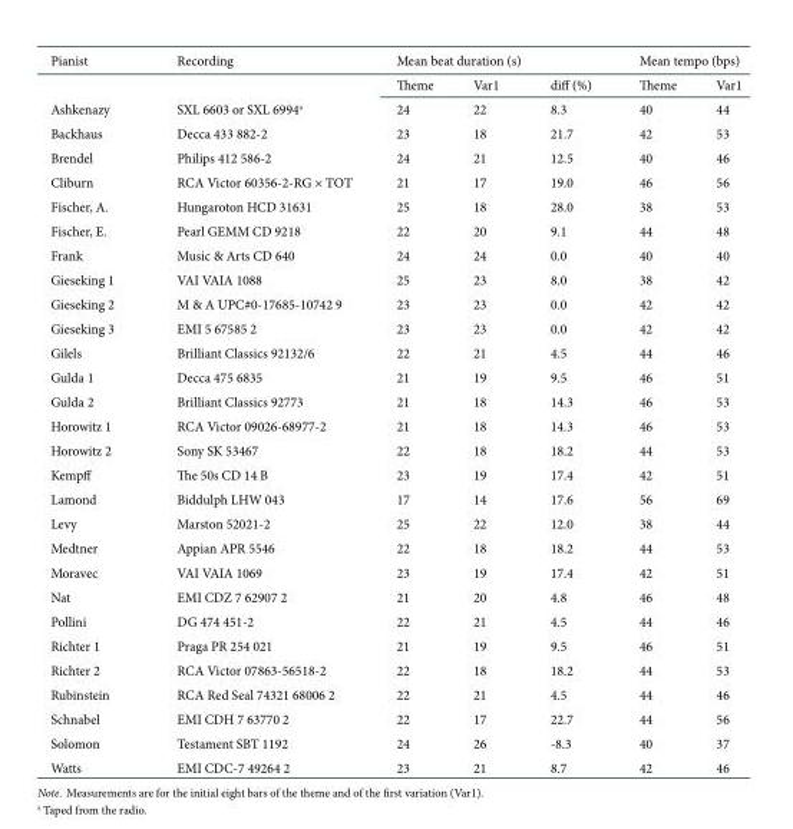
<table><thead><tr><td rowspan="2">Pianist</td><td rowspan="2">Recording</td><td colspan="2">Mean beat duration (s)</td><td rowspan="2">diff (%)</td><td colspan="2">Mean tempo (bps)</td></tr><tr><td>Theme</td><td>Var1</td><td>Theme</td><td>Var1</td></tr></thead><tbody><tr><td>Ashkenazy</td><td>SXL 6603 or SXL 6994<sup>a</sup></td><td>24</td><td>22</td><td>8.3</td><td>40</td><td>44</td></tr><tr><td>Backhaus</td><td>Decca 433 882-2</td><td>23</td><td>18</td><td>21.7</td><td>42</td><td>53</td></tr><tr><td>Brendel</td><td>Philips 412 586-2</td><td>24</td><td>21</td><td>12.5</td><td>40</td><td>46</td></tr><tr><td>Cliburn</td><td>RCA Victor 60356-2-RG × TOT</td><td>21</td><td>17</td><td>19.0</td><td>46</td><td>56</td></tr><tr><td>Fischer, A.</td><td>Hungaroton HCD 31631</td><td>25</td><td>18</td><td>28.0</td><td>38</td><td>53</td></tr><tr><td>Fischer, E.</td><td>Pearl GEMM CD 9218</td><td>22</td><td>20</td><td>9.1</td><td>44</td><td>48</td></tr><tr><td>Frank</td><td>Music &amp; Arts CD 640</td><td>24</td><td>24</td><td>0.0</td><td>40</td><td>40</td></tr><tr><td>Gieseking 1</td><td>VAI VAIA 1088</td><td>25</td><td>23</td><td>8.0</td><td>38</td><td>42</td></tr><tr><td>Gieseking 2</td><td>M &amp; A UPC#0-17685-10742 9</td><td>23</td><td>23</td><td>0.0</td><td>42</td><td>42</td></tr><tr><td>Gieseking 3</td><td>EMI 5 67585 2</td><td>23</td><td>23</td><td>0.0</td><td>42</td><td>42</td></tr><tr><td>Gilels</td><td>Brilliant Classics 92132/6</td><td>22</td><td>21</td><td>4.5</td><td>44</td><td>46</td></tr><tr><td>Gulda 1</td><td>Decca 475 6835</td><td>21</td><td>19</td><td>9.5</td><td>46</td><td>51</td></tr><tr><td>Gulda 2</td><td>Brilliant Classics 92773</td><td>21</td><td>18</td><td>14.3</td><td>46</td><td>53</td></tr><tr><td>Horowitz 1</td><td>RCA Victor 09026-68977-2</td><td>21</td><td>18</td><td>14.3</td><td>46</td><td>53</td></tr><tr><td>Horowitz 2</td><td>Sony SK 53467</td><td>22</td><td>18</td><td>18.2</td><td>44</td><td>53</td></tr><tr><td>Kempff</td><td>The 50s CD 14 B</td><td>23</td><td>19</td><td>17.4</td><td>42</td><td>51</td></tr><tr><td>Lamond</td><td>Biddulph LHW 043</td><td>17</td><td>14</td><td>17.6</td><td>56</td><td>69</td></tr><tr><td>Levy</td><td>Marston 52021-2</td><td>25</td><td>22</td><td>12.0</td><td>38</td><td>44</td></tr><tr><td>Medtner</td><td>Appian APR 5546</td><td>22</td><td>18</td><td>18.2</td><td>44</td><td>53</td></tr><tr><td>Moravec</td><td>VAI VAIA 1069</td><td>23</td><td>19</td><td>17.4</td><td>42</td><td>51</td></tr><tr><td>Nat</td><td>EMI CDZ 7 62907 2</td><td>21</td><td>20</td><td>4.8</td><td>46</td><td>48</td></tr><tr><td>Pollini</td><td>DG 474 451-2</td><td>22</td><td>21</td><td>4.5</td><td>44</td><td>46</td></tr><tr><td>Richter 1</td><td>Praga PR 254 021</td><td>21</td><td>19</td><td>9.5</td><td>46</td><td>51</td></tr><tr><td>Richter 2</td><td>RCA Victor 07863-56518-2</td><td>22</td><td>18</td><td>18.2</td><td>44</td><td>53</td></tr><tr><td>Rubinstein</td><td>RCA Red Seal 74321 68006 2</td><td>22</td><td>21</td><td>4.5</td><td>44</td><td>46</td></tr><tr><td>Schnabel</td><td>EMI CDH 7 63770 2</td><td>22</td><td>17</td><td>22.7</td><td>44</td><td>56</td></tr><tr><td>Solomon</td><td>Testament SBT 1192</td><td>24</td><td>26</td><td>-8.3</td><td>40</td><td>37</td></tr><tr><td>Watts</td><td>EMI CDC-7 49264 2</td><td>23</td><td>21</td><td>8.7</td><td>42</td><td>46</td></tr></tbody></table>